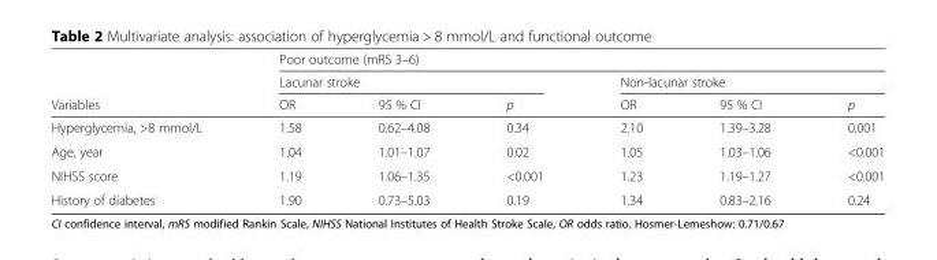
<table><thead><tr><td rowspan="3">Variables</td><td colspan="6">Poor outcome (mRS 3–6)</td></tr><tr><td colspan="3">Lacunar stroke</td><td colspan="3">Non-lacunar stroke</td></tr><tr><td>OR</td><td>95 % CI</td><td>p</td><td>OR</td><td>95 % CI</td><td>p</td></tr></thead><tbody><tr><td>Hyperglycemia, &gt;8 mmol/L</td><td>1.58</td><td>0.62–4.08</td><td>0.34</td><td>2.10</td><td>1.39–3.28</td><td>0.001</td></tr><tr><td>Age, year</td><td>1.04</td><td>1.01–1.07</td><td>0.02</td><td>1.05</td><td>1.03–1.06</td><td>&lt;0.001</td></tr><tr><td>NIHSS score</td><td>1.19</td><td>1.06–1.35</td><td>&lt;0.001</td><td>1.23</td><td>1.19–1.27</td><td>&lt;0.001</td></tr><tr><td>History of diabetes</td><td>1.90</td><td>0.73–5.03</td><td>0.19</td><td>1.34</td><td>0.83–2.16</td><td>0.24</td></tr></tbody></table>